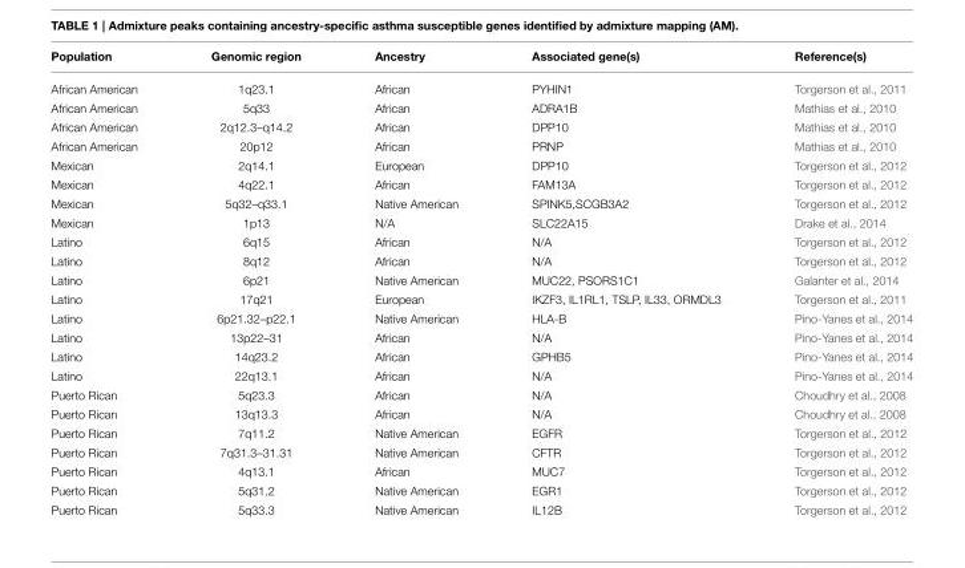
<table><thead><tr><td>Population</td><td>Genomic region</td><td>Ancestry</td><td>Associated gene(s)</td><td>Reference(s)</td></tr></thead><tbody><tr><td>African American</td><td>1q23.1</td><td>African</td><td>PYHIN1</td><td>Torgerson et al., 2011</td></tr><tr><td>African American</td><td>5q33</td><td>African</td><td>ADRA1B</td><td>Mathias et al., 2010</td></tr><tr><td>African American</td><td>2q12.3–q14.2</td><td>African</td><td>DPP10</td><td>Mathias et al., 2010</td></tr><tr><td>African American</td><td>20p12</td><td>African</td><td>PRNP</td><td>Mathias et al., 2010</td></tr><tr><td>Mexican</td><td>2q14.1</td><td>European</td><td>DPP10</td><td>Torgerson et al., 2012</td></tr><tr><td>Mexican</td><td>4q22.1</td><td>African</td><td>FAM13A</td><td>Torgerson et al., 2012</td></tr><tr><td>Mexican</td><td>5q32–q33.1</td><td>Native American</td><td>SPINK5,SCGB3A2</td><td>Torgerson et al., 2012</td></tr><tr><td>Mexican</td><td>1p13</td><td>N/A</td><td>SLC22A15</td><td>Drake et al., 2014</td></tr><tr><td>Latino</td><td>6q15</td><td>African</td><td>N/A</td><td>Torgerson et al., 2012</td></tr><tr><td>Latino</td><td>8q12</td><td>African</td><td>N/A</td><td>Torgerson et al., 2012</td></tr><tr><td>Latino</td><td>6p21</td><td>Native American</td><td>MUC22, PSORS1C1</td><td>Galanter et al., 2014</td></tr><tr><td>Latino</td><td>17q21</td><td>European</td><td>IKZF3, IL1RL1, TSLP, IL33, ORMDL3</td><td>Torgerson et al., 2011</td></tr><tr><td>Latino</td><td>6p21.32–p22.1</td><td>Native American</td><td>HLA-B</td><td>Pino-Yanes et al., 2014</td></tr><tr><td>Latino</td><td>13p22–31</td><td>African</td><td>N/A</td><td>Pino-Yanes et al., 2014</td></tr><tr><td>Latino</td><td>14q23.2</td><td>African</td><td>GPHB5</td><td>Pino-Yanes et al., 2014</td></tr><tr><td>Latino</td><td>22q13.1</td><td>African</td><td>N/A</td><td>Pino-Yanes et al., 2014</td></tr><tr><td>Puerto Rican</td><td>5q23.3</td><td>African</td><td>N/A</td><td>Choudhry et al., 2008</td></tr><tr><td>Puerto Rican</td><td>13q13.3</td><td>African</td><td>N/A</td><td>Choudhry et al., 2008</td></tr><tr><td>Puerto Rican</td><td>7q11.2</td><td>Native American</td><td>EGFR</td><td>Torgerson et al., 2012</td></tr><tr><td>Puerto Rican</td><td>7q31.3–31.31</td><td>Native American</td><td>CFTR</td><td>Torgerson et al., 2012</td></tr><tr><td>Puerto Rican</td><td>4q13.1</td><td>African</td><td>MUC7</td><td>Torgerson et al., 2012</td></tr><tr><td>Puerto Rican</td><td>5q31.2</td><td>Native American</td><td>EGR1</td><td>Torgerson et al., 2012</td></tr><tr><td>Puerto Rican</td><td>5q33.3</td><td>Native American</td><td>IL12B</td><td>Torgerson et al., 2012</td></tr></tbody></table>